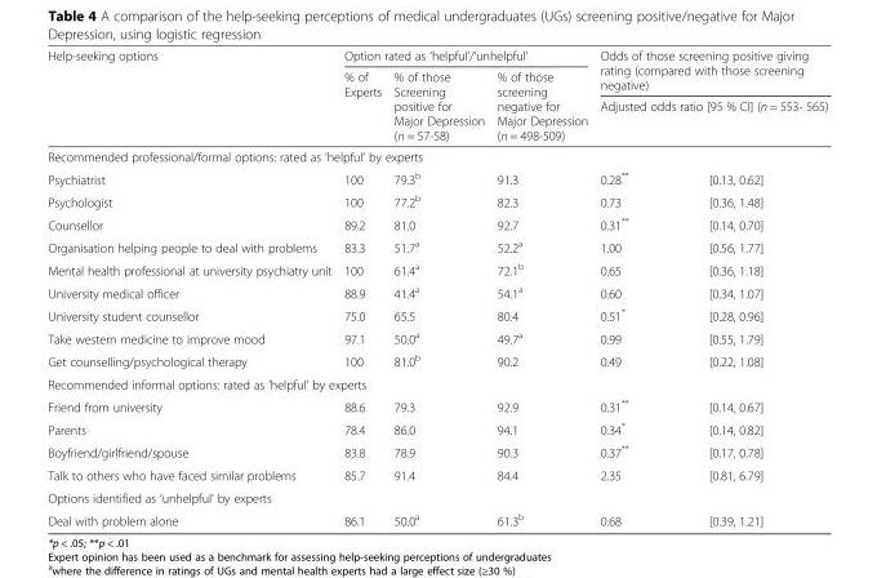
<table><thead><tr><td rowspan="3">Help-seeking options</td><td colspan="3">Option rated as ‘helpful’/‘unhelpful’</td><td rowspan="3" colspan="2">Odds of those screening positive giving rating (compared with those screening negative) Adjusted odds ratio [95 % CI] (n = 553- 565)</td></tr><tr><td rowspan="2">% of Experts</td><td rowspan="2">% of those Screening positive for Major Depression (n = 57-58)</td><td rowspan="2">% of those screening negative for Major Depression (n = 498-509)</td></tr><tr></tr><tr><td colspan="6">Recommended professional/formal options: rated as ‘helpful’ by experts</td></tr><tr><td>Psychiatrist</td><td>100</td><td>79.3<sup>b</sup></td><td>91.3</td><td>0.28**</td><td>[0.13, 0.62]</td></tr></thead><tbody><tr><td>Psychologist</td><td>100</td><td>77.2<sup>b</sup></td><td>82.3</td><td>0.73</td><td>[0.36, 1.48]</td></tr><tr><td>Counsellor</td><td>89.2</td><td>81.0</td><td>92.7</td><td>0.31**</td><td>[0.14, 0.70]</td></tr><tr><td>Organisation helping people to deal with problems</td><td>83.3</td><td>51.7<sup>a</sup></td><td>52.2<sup>a</sup></td><td>1.00</td><td>[0.56, 1.77]</td></tr><tr><td>Mental health professional at university psychiatry unit</td><td>100</td><td>61.4<sup>a</sup></td><td>72.1<sup>b</sup></td><td>0.65</td><td>[0.36, 1.18]</td></tr><tr><td>University medical officer</td><td>88.9</td><td>41.4<sup>a</sup></td><td>54.1<sup>a</sup></td><td>0.60</td><td>[0.34, 1.07]</td></tr><tr><td>University student counsellor</td><td>75.0</td><td>65.5</td><td>80.4</td><td>0.51*</td><td>[0.28, 0.96]</td></tr><tr><td>Take western medicine to improve mood</td><td>97.1</td><td>50.0<sup>a</sup></td><td>49.7<sup>a</sup></td><td>0.99</td><td>[0.55, 1.79]</td></tr><tr><td>Get counselling/psychological therapy</td><td>100</td><td>81.0<sup>b</sup></td><td>90.2</td><td>0.49</td><td>[0.22, 1.08]</td></tr><tr><td colspan="6">Recommended informal options: rated as ‘helpful’ by experts</td></tr><tr><td>Friend from university</td><td>88.6</td><td>79.3</td><td>92.9</td><td>0.31**</td><td>[0.14, 0.67]</td></tr><tr><td>Parents</td><td>78.4</td><td>86.0</td><td>94.1</td><td>0.34*</td><td>[0.14, 0.82]</td></tr><tr><td>Boyfriend/girlfriend/spouse</td><td>83.8</td><td>78.9</td><td>90.3</td><td>0.37**</td><td>[0.17, 0.78]</td></tr><tr><td>Talk to others who have faced similar problems</td><td>85.7</td><td>91.4</td><td>84.4</td><td>2.35</td><td>[0.81, 6.79]</td></tr><tr><td colspan="6">Options identified as ‘unhelpful’ by experts</td></tr><tr><td>Deal with problem alone</td><td>86.1</td><td>50.0<sup>a</sup></td><td>61.3<sup>b</sup></td><td>0.68</td><td>[0.39, 1.21]</td></tr></tbody></table>